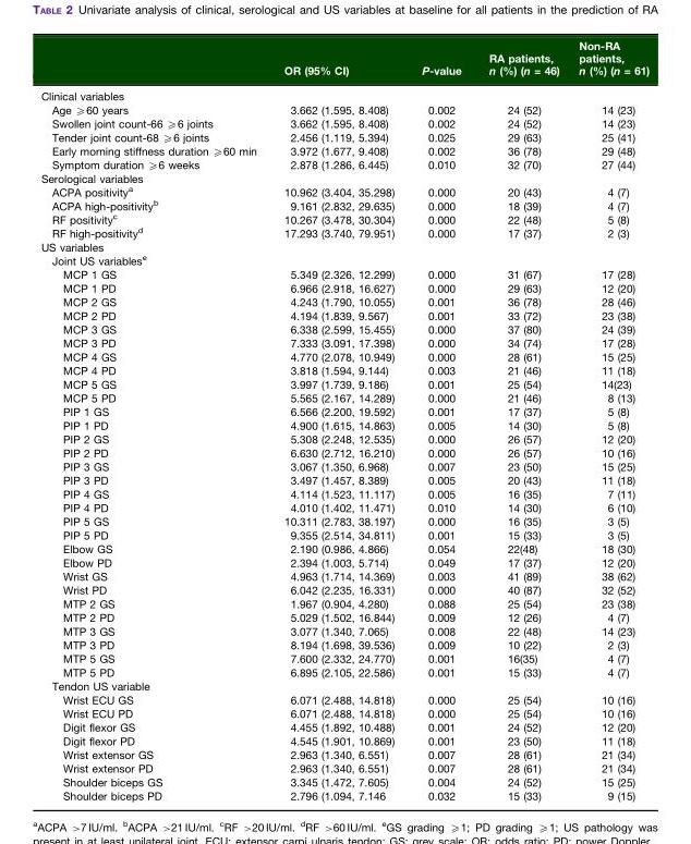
<table><thead><tr><td></td><td>OR (95% CI)</td><td>P-value</td><td>RA patients, n (%) (n = 46)</td><td>Non-RA patients, n (%) (n = 61)</td></tr></thead><tbody><tr><td colspan="5">Clinical variables</td></tr><tr><td>Age ≥60 years</td><td>3.662 (1.595, 8.408)</td><td>0.002</td><td>24 (52)</td><td>14 (23)</td></tr><tr><td>Swollen joint count-66 ≥6 joints</td><td>3.662 (1.595, 8.408)</td><td>0.002</td><td>24 (52)</td><td>14 (23)</td></tr><tr><td>Tender joint count-68 ≥6 joints</td><td>2.456 (1.119, 5.394)</td><td>0.025</td><td>29 (63)</td><td>25 (41)</td></tr><tr><td>Early morning stiffness duration ≥60 min</td><td>3.972 (1.677, 9.408)</td><td>0.002</td><td>36 (78)</td><td>29 (48)</td></tr><tr><td>Symptom duration ≥6 weeks</td><td>2.878 (1.286, 6.445)</td><td>0.010</td><td>32 (70)</td><td>27 (44)</td></tr><tr><td colspan="5">Serological variables</td></tr><tr><td>ACPA positivity<sup>a</sup></td><td>10.962 (3.404, 35.298)</td><td>0.000</td><td>20 (43)</td><td>4 (7)</td></tr><tr><td>ACPA high-positivity<sup>b</sup></td><td>9.161 (2.832, 29.635)</td><td>0.000</td><td>18 (39)</td><td>4 (7)</td></tr><tr><td>RF positivity<sup>c</sup></td><td>10.267 (3.478, 30.304)</td><td>0.000</td><td>22 (48)</td><td>5 (8)</td></tr><tr><td>RF high-positivity<sup>d</sup></td><td>17.293 (3.740, 79.951)</td><td>0.000</td><td>17 (37)</td><td>2 (3)</td></tr><tr><td colspan="5">US variables</td></tr><tr><td colspan="5">Joint US variables<sup>e</sup></td></tr><tr><td>MCP 1 GS</td><td>5.349 (2.326, 12.299)</td><td>0.000</td><td>31 (67)</td><td>17 (28)</td></tr><tr><td>MCP 1 PD</td><td>6.966 (2.918, 16.627)</td><td>0.000</td><td>29 (63)</td><td>12 (20)</td></tr><tr><td>MCP 2 GS</td><td>4.243 (1.790, 10.055)</td><td>0.001</td><td>36 (78)</td><td>28 (46)</td></tr><tr><td>MCP 2 PD</td><td>4.194 (1.839, 9.567)</td><td>0.001</td><td>33 (72)</td><td>23 (38)</td></tr><tr><td>MCP 3 GS</td><td>6.338 (2.599, 15.455)</td><td>0.000</td><td>37 (80)</td><td>24 (39)</td></tr><tr><td>MCP 3 PD</td><td>7.333 (3.091, 17.398)</td><td>0.000</td><td>34 (74)</td><td>17 (28)</td></tr><tr><td>MCP 4 GS</td><td>4.770 (2.078, 10.949)</td><td>0.000</td><td>28 (61)</td><td>15 (25)</td></tr><tr><td>MCP 4 PD</td><td>3.818 (1.594, 9.144)</td><td>0.003</td><td>21 (46)</td><td>11 (18)</td></tr><tr><td>MCP 5 GS</td><td>3.997 (1.739, 9.186)</td><td>0.001</td><td>25 (54)</td><td>14(23)</td></tr><tr><td>MCP 5 PD</td><td>5.565 (2.167, 14.289)</td><td>0.000</td><td>21 (46)</td><td>8 (13)</td></tr><tr><td>PIP 1 GS</td><td>6.566 (2.200, 19.592)</td><td>0.001</td><td>17 (37)</td><td>5 (8)</td></tr><tr><td>PIP 1 PD</td><td>4.900 (1.615, 14.863)</td><td>0.005</td><td>14 (30)</td><td>5 (8)</td></tr><tr><td>PIP 2 GS</td><td>5.308 (2.248, 12.535)</td><td>0.000</td><td>26 (57)</td><td>12 (20)</td></tr><tr><td>PIP 2 PD</td><td>6.630 (2.712, 16.210)</td><td>0.000</td><td>26 (57)</td><td>10 (16)</td></tr><tr><td>PIP 3 GS</td><td>3.067 (1.350, 6.968)</td><td>0.007</td><td>23 (50)</td><td>15 (25)</td></tr><tr><td>PIP 3 PD</td><td>3.497 (1.457, 8.389)</td><td>0.005</td><td>20 (43)</td><td>11 (18)</td></tr><tr><td>PIP 4 GS</td><td>4.114 (1.523, 11.117)</td><td>0.005</td><td>16 (35)</td><td>7 (11)</td></tr><tr><td>PIP 4 PD</td><td>4.010 (1.402, 11.471)</td><td>0.010</td><td>14 (30)</td><td>6 (10)</td></tr><tr><td>PIP 5 GS</td><td>10.311 (2.783, 38.197)</td><td>0.000</td><td>16 (35)</td><td>3 (5)</td></tr><tr><td>PIP 5 PD</td><td>9.355 (2.514, 34.811)</td><td>0.001</td><td>15 (33)</td><td>3 (5)</td></tr><tr><td>Elbow GS</td><td>2.190 (0.986, 4.866)</td><td>0.054</td><td>22(48)</td><td>18 (30)</td></tr><tr><td>Elbow PD</td><td>2.394 (1.003, 5.714)</td><td>0.049</td><td>17 (37)</td><td>12 (20)</td></tr><tr><td>Wrist GS</td><td>4.963 (1.714, 14.369)</td><td>0.003</td><td>41 (89)</td><td>38 (62)</td></tr><tr><td>Wrist PD</td><td>6.042 (2.235, 16.331)</td><td>0.000</td><td>40 (87)</td><td>32 (52)</td></tr><tr><td>MTP 2 GS</td><td>1.967 (0.904, 4.280)</td><td>0.088</td><td>25 (54)</td><td>23 (38)</td></tr><tr><td>MTP 2 PD</td><td>5.029 (1.502, 16.844)</td><td>0.009</td><td>12 (26)</td><td>4 (7)</td></tr><tr><td>MTP 3 GS</td><td>3.077 (1.340, 7.065)</td><td>0.008</td><td>22 (48)</td><td>14 (23)</td></tr><tr><td>MTP 3 PD</td><td>8.194 (1.698, 39.536)</td><td>0.009</td><td>10 (22)</td><td>2 (3)</td></tr><tr><td>MTP 5 GS</td><td>7.600 (2.332, 24.770)</td><td>0.001</td><td>16(35)</td><td>4 (7)</td></tr><tr><td>MTP 5 PD</td><td>6.895 (2.105, 22.586)</td><td>0.001</td><td>15 (33)</td><td>4 (7)</td></tr><tr><td colspan="5">Tendon US variable</td></tr><tr><td>Wrist ECU GS</td><td>6.071 (2.488, 14.818)</td><td>0.000</td><td>25 (54)</td><td>10 (16)</td></tr><tr><td>Wrist ECU PD</td><td>6.071 (2.488, 14.818)</td><td>0.000</td><td>25 (54)</td><td>10 (16)</td></tr><tr><td>Digit flexor GS</td><td>4.455 (1.892, 10.488)</td><td>0.001</td><td>24 (52)</td><td>12 (20)</td></tr><tr><td>Digit flexor PD</td><td>4.545 (1.901, 10.869)</td><td>0.001</td><td>23 (50)</td><td>11 (18)</td></tr><tr><td>Wrist extensor GS</td><td>2.963 (1.340, 6.551)</td><td>0.007</td><td>28 (61)</td><td>21 (34)</td></tr><tr><td>Wrist extensor PD</td><td>2.963 (1.340, 6.551)</td><td>0.007</td><td>28 (61)</td><td>21 (34)</td></tr><tr><td>Shoulder biceps GS</td><td>3.345 (1.472, 7.605)</td><td>0.004</td><td>24 (52)</td><td>15 (25)</td></tr><tr><td>Shoulder biceps PD</td><td>2.796 (1.094, 7.146</td><td>0.032</td><td>15 (33)</td><td>9 (15)</td></tr></tbody></table>